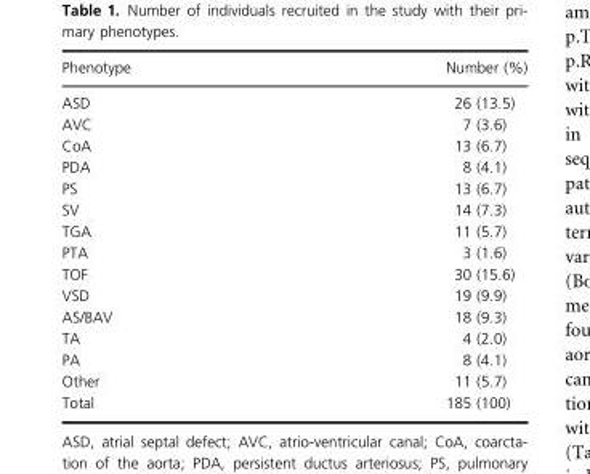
<table><thead><tr><td>Phenotype</td><td>Number (%)</td></tr></thead><tbody><tr><td>ASD</td><td>26 (13.5)</td></tr><tr><td>AVC</td><td>7 (3.6)</td></tr><tr><td>CoA</td><td>13 (6.7)</td></tr><tr><td>PDA</td><td>8 (4.1)</td></tr><tr><td>PS</td><td>13 (6.7)</td></tr><tr><td>SV</td><td>14 (7.3)</td></tr><tr><td>TGA</td><td>11 (5.7)</td></tr><tr><td>PTA</td><td>3 (1.6)</td></tr><tr><td>TOF</td><td>30 (15.6)</td></tr><tr><td>VSD</td><td>19 (9.9)</td></tr><tr><td>AS/BAV</td><td>18 (9.3)</td></tr><tr><td>TA</td><td>4 (2.0)</td></tr><tr><td>PA</td><td>8 (4.1)</td></tr><tr><td>Other</td><td>11 (5.7)</td></tr><tr><td>Total</td><td>185 (100)</td></tr></tbody></table>